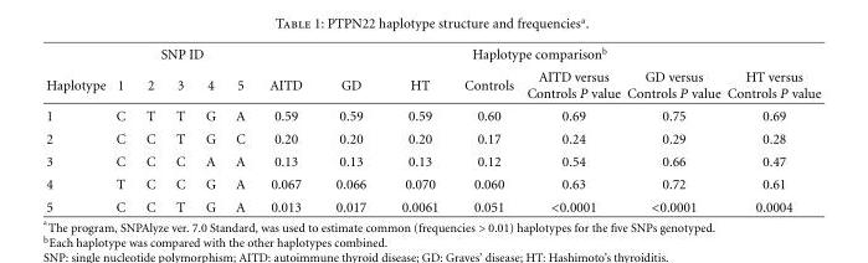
<table><thead><tr><td rowspan="2">Haplotype</td><td colspan="5">SNP ID</td><td colspan="7">Haplotype comparison<sup>b</sup></td></tr><tr><td>1</td><td>2</td><td>3</td><td>4</td><td>5</td><td>AITD</td><td>GD</td><td>HT</td><td>Controls</td><td>AITD versus Controls P value</td><td>GD versus Controls P value</td><td>HT versus Controls P value</td></tr></thead><tbody><tr><td>1</td><td>C</td><td>T</td><td>T</td><td>G</td><td>A</td><td>0.59</td><td>0.59</td><td>0.59</td><td>0.60</td><td>0.69</td><td>0.75</td><td>0.69</td></tr><tr><td>2</td><td>C</td><td>C</td><td>T</td><td>G</td><td>C</td><td>0.20</td><td>0.20</td><td>0.20</td><td>0.17</td><td>0.24</td><td>0.29</td><td>0.28</td></tr><tr><td>3</td><td>C</td><td>C</td><td>C</td><td>A</td><td>A</td><td>0.13</td><td>0.13</td><td>0.13</td><td>0.12</td><td>0.54</td><td>0.66</td><td>0.47</td></tr><tr><td>4</td><td>T</td><td>C</td><td>C</td><td>G</td><td>A</td><td>0.067</td><td>0.066</td><td>0.070</td><td>0.060</td><td>0.63</td><td>0.72</td><td>0.61</td></tr><tr><td>5</td><td>C</td><td>C</td><td>T</td><td>G</td><td>A</td><td>0.013</td><td>0.017</td><td>0.0061</td><td>0.051</td><td>&lt;0.0001</td><td>&lt;0.0001</td><td>0.0004</td></tr></tbody></table>